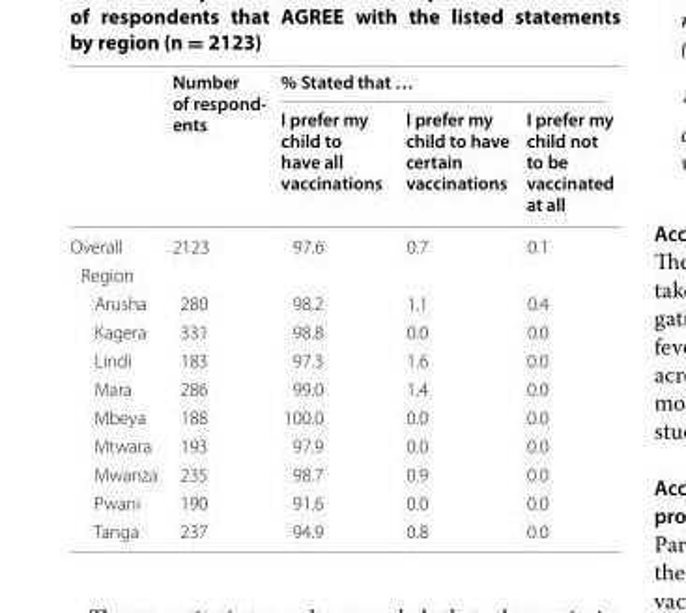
<table><thead><tr><td rowspan="2"></td><td rowspan="2">Number of respond- ents</td><td colspan="3">% Stated that …</td></tr><tr><td>I prefer my child to have all vaccinations</td><td>I prefer my child to have certain vaccinations</td><td>I prefer my child not to be vaccinated at all</td></tr></thead><tbody><tr><td>Overall</td><td>2123</td><td>97.6</td><td>0.7</td><td>0.1</td></tr><tr><td colspan="5">Region</td></tr><tr><td>Arusha</td><td>280</td><td>98.2</td><td>1.1</td><td>0.4</td></tr><tr><td>Kagera</td><td>331</td><td>98.8</td><td>0.0</td><td>0.0</td></tr><tr><td>Lindi</td><td>183</td><td>97.3</td><td>1.6</td><td>0.0</td></tr><tr><td>Mara</td><td>286</td><td>99.0</td><td>1.4</td><td>0.0</td></tr><tr><td>Mbeya</td><td>188</td><td>100.0</td><td>0.0</td><td>0.0</td></tr><tr><td>Mtwara</td><td>193</td><td>97.9</td><td>0.0</td><td>0.0</td></tr><tr><td>Mwanza</td><td>235</td><td>98.7</td><td>0.9</td><td>0.0</td></tr><tr><td>Pwani</td><td>190</td><td>91.6</td><td>0.0</td><td>0.0</td></tr><tr><td>Tanga</td><td>237</td><td>94.9</td><td>0.8</td><td>0.0</td></tr></tbody></table>